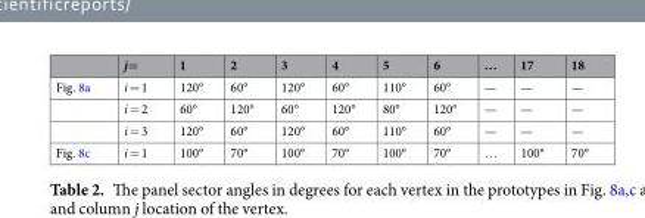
<table><thead><tr><td></td><td>j=</td><td>1</td><td>2</td><td>3</td><td>4</td><td>5</td><td>6</td><td>…</td><td>17</td><td>18</td></tr></thead><tbody><tr><td rowspan="3">Fig. 8a</td><td>i = 1</td><td>120°</td><td>60°</td><td>120°</td><td>60°</td><td>110°</td><td>60°</td><td>—</td><td>—</td><td>—</td></tr><tr><td>i = 2</td><td>60°</td><td>120°</td><td>60°</td><td>120°</td><td>80°</td><td>120°</td><td>—</td><td>—</td><td>—</td></tr><tr><td>i = 3</td><td>120°</td><td>60°</td><td>120°</td><td>60°</td><td>110°</td><td>60°</td><td>—</td><td>—</td><td>—</td></tr><tr><td>Fig. 8c</td><td>i = 1</td><td>100°</td><td>70°</td><td>100°</td><td>70°</td><td>100°</td><td>70°</td><td>…</td><td>100°</td><td>70°</td></tr></tbody></table>